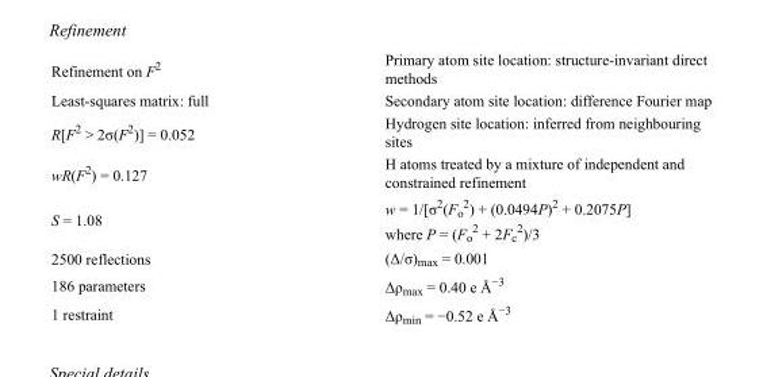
<table><tbody><tr><td>Refinement on F<sup>2</sup></td><td>Primary atom site location: structure-invariant direct methods</td></tr><tr><td>Least-squares matrix: full</td><td>Secondary atom site location: difference Fourier map</td></tr><tr><td>R[F<sup>2</sup> &gt; 2σ(F<sup>2</sup>)] = 0.052</td><td>Hydrogen site location: inferred from neighbouring sites</td></tr><tr><td>wR(F<sup>2</sup>) = 0.127</td><td>H atoms treated by a mixture of independent and constrained refinement</td></tr><tr><td>S = 1.08</td><td>w = 1/[σ<sup>2</sup>(F<sub>o</sub> <sup>2</sup>) + (0.0494P)<sup>2</sup> + 0.2075P] where P = (F<sub>o</sub> <sup>2</sup> + 2F<sub>c</sub> <sup>2</sup>)/3</td></tr><tr><td>2500 reflections</td><td>(Δ/σ)<sub>max</sub> = 0.001</td></tr><tr><td>186 parameters</td><td>Δρ<sub>max</sub> = 0.40 e Å<sup>−3</sup></td></tr><tr><td>1 restraint</td><td>Δρ<sub>min</sub> = −0.52 e Å<sup>−3</sup></td></tr></tbody></table>